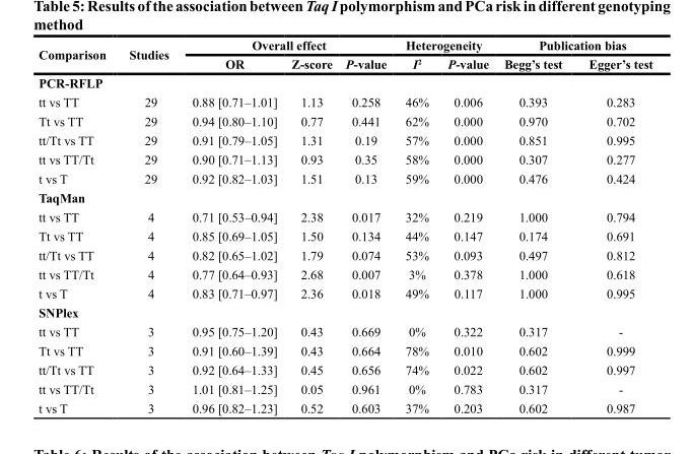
<table><thead><tr><td rowspan="2">Comparison</td><td rowspan="2">Studies</td><td colspan="3">Overall effect</td><td colspan="2">Heterogeneity</td><td colspan="2">Publication bias</td></tr><tr><td>OR</td><td>Z-score</td><td>P-value</td><td>I<sup>2</sup></td><td>P-value</td><td>Begg’s test</td><td>Egger’s test</td></tr></thead><tbody><tr><td colspan="9">PCR-RFLP</td></tr><tr><td>tt vs TT</td><td>29</td><td>0.88 [0.71–1.01]</td><td>1.13</td><td>0.258</td><td>46%</td><td>0.006</td><td>0.393</td><td>0.283</td></tr><tr><td>Tt vs TT</td><td>29</td><td>0.94 [0.80–1.10]</td><td>0.77</td><td>0.441</td><td>62%</td><td>0.000</td><td>0.970</td><td>0.702</td></tr><tr><td>tt/Tt vs TT</td><td>29</td><td>0.91 [0.79–1.05]</td><td>1.31</td><td>0.19</td><td>57%</td><td>0.000</td><td>0.851</td><td>0.995</td></tr><tr><td>tt vs TT/Tt</td><td>29</td><td>0.90 [0.71–1.13]</td><td>0.93</td><td>0.35</td><td>58%</td><td>0.000</td><td>0.307</td><td>0.277</td></tr><tr><td>t vs T</td><td>29</td><td>0.92 [0.82–1.03]</td><td>1.51</td><td>0.13</td><td>59%</td><td>0.000</td><td>0.476</td><td>0.424</td></tr><tr><td colspan="9">TaqMan</td></tr><tr><td>tt vs TT</td><td>4</td><td>0.71 [0.53–0.94]</td><td>2.38</td><td>0.017</td><td>32%</td><td>0.219</td><td>1.000</td><td>0.794</td></tr><tr><td>Tt vs TT</td><td>4</td><td>0.85 [0.69–1.05]</td><td>1.50</td><td>0.134</td><td>44%</td><td>0.147</td><td>0.174</td><td>0.691</td></tr><tr><td>tt/Tt vs TT</td><td>4</td><td>0.82 [0.65–1.02]</td><td>1.79</td><td>0.074</td><td>53%</td><td>0.093</td><td>0.497</td><td>0.812</td></tr><tr><td>tt vs TT/Tt</td><td>4</td><td>0.77 [0.64–0.93]</td><td>2.68</td><td>0.007</td><td>3%</td><td>0.378</td><td>1.000</td><td>0.618</td></tr><tr><td>t vs T</td><td>4</td><td>0.83 [0.71–0.97]</td><td>2.36</td><td>0.018</td><td>49%</td><td>0.117</td><td>1.000</td><td>0.995</td></tr><tr><td colspan="9">SNPlex</td></tr><tr><td>tt vs TT</td><td>3</td><td>0.95 [0.75–1.20]</td><td>0.43</td><td>0.669</td><td>0%</td><td>0.322</td><td>0.317</td><td>-</td></tr><tr><td>Tt vs TT</td><td>3</td><td>0.91 [0.60–1.39]</td><td>0.43</td><td>0.664</td><td>78%</td><td>0.010</td><td>0.602</td><td>0.999</td></tr><tr><td>tt/Tt vs TT</td><td>3</td><td>0.92 [0.64–1.33]</td><td>0.45</td><td>0.656</td><td>74%</td><td>0.022</td><td>0.602</td><td>0.997</td></tr><tr><td>tt vs TT/Tt</td><td>3</td><td>1.01 [0.81–1.25]</td><td>0.05</td><td>0.961</td><td>0%</td><td>0.783</td><td>0.317</td><td>-</td></tr><tr><td>t vs T</td><td>3</td><td>0.96 [0.82–1.23]</td><td>0.52</td><td>0.603</td><td>37%</td><td>0.203</td><td>0.602</td><td>0.987</td></tr></tbody></table>